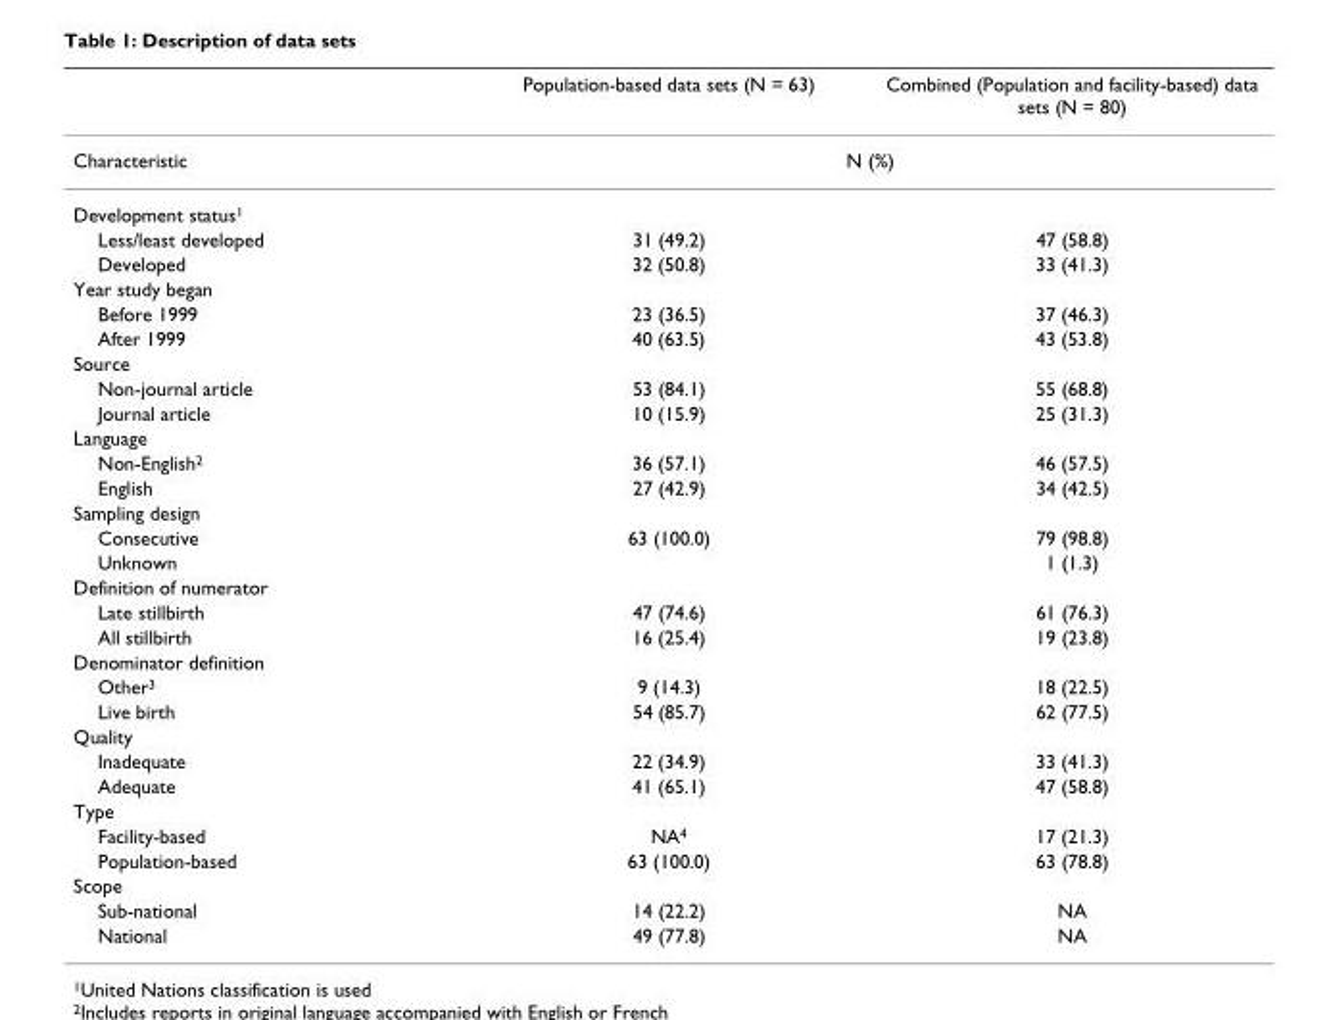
<table><thead><tr><td></td><td>Population-based data sets (N = 63)</td><td>Combined (Population and facility-based) data sets (N = 80)</td></tr></thead><tbody><tr><td>Characteristic</td><td colspan="2">N (%)</td></tr><tr><td colspan="3">Development status<sup>1</sup></td></tr><tr><td>Less/least developed</td><td>31 (49.2)</td><td>47 (58.8)</td></tr><tr><td>Developed</td><td>32 (50.8)</td><td>33 (41.3)</td></tr><tr><td colspan="3">Year study began</td></tr><tr><td>Before 1999</td><td>23 (36.5)</td><td>37 (46.3)</td></tr><tr><td>After 1999</td><td>40 (63.5)</td><td>43 (53.8)</td></tr><tr><td colspan="3">Source</td></tr><tr><td>Non-journal article</td><td>53 (84.1)</td><td>55 (68.8)</td></tr><tr><td>Journal article</td><td>10 (15.9)</td><td>25 (31.3)</td></tr><tr><td colspan="3">Language</td></tr><tr><td>Non-English<sup>2</sup></td><td>36 (57.1)</td><td>46 (57.5)</td></tr><tr><td>English</td><td>27 (42.9)</td><td>34 (42.5)</td></tr><tr><td colspan="3">Sampling design</td></tr><tr><td>Consecutive</td><td>63 (100.0)</td><td>79 (98.8)</td></tr><tr><td>Unknown</td><td></td><td>1 (1.3)</td></tr><tr><td colspan="3">Definition of numerator</td></tr><tr><td>Late stillbirth</td><td>47 (74.6)</td><td>61 (76.3)</td></tr><tr><td>All stillbirth</td><td>16 (25.4)</td><td>19 (23.8)</td></tr><tr><td colspan="3">Denominator definition</td></tr><tr><td>Other<sup>3</sup></td><td>9 (14.3)</td><td>18 (22.5)</td></tr><tr><td>Live birth</td><td>54 (85.7)</td><td>62 (77.5)</td></tr><tr><td colspan="3">Quality</td></tr><tr><td>Inadequate</td><td>22 (34.9)</td><td>33 (41.3)</td></tr><tr><td>Adequate</td><td>41 (65.1)</td><td>47 (58.8)</td></tr><tr><td colspan="3">Type</td></tr><tr><td>Facility-based</td><td>NA<sup>4</sup></td><td>17 (21.3)</td></tr><tr><td>Population-based</td><td>63 (100.0)</td><td>63 (78.8)</td></tr><tr><td colspan="3">Scope</td></tr><tr><td>Sub-national</td><td>14 (22.2)</td><td>NA</td></tr><tr><td>National</td><td>49 (77.8)</td><td>NA</td></tr></tbody></table>